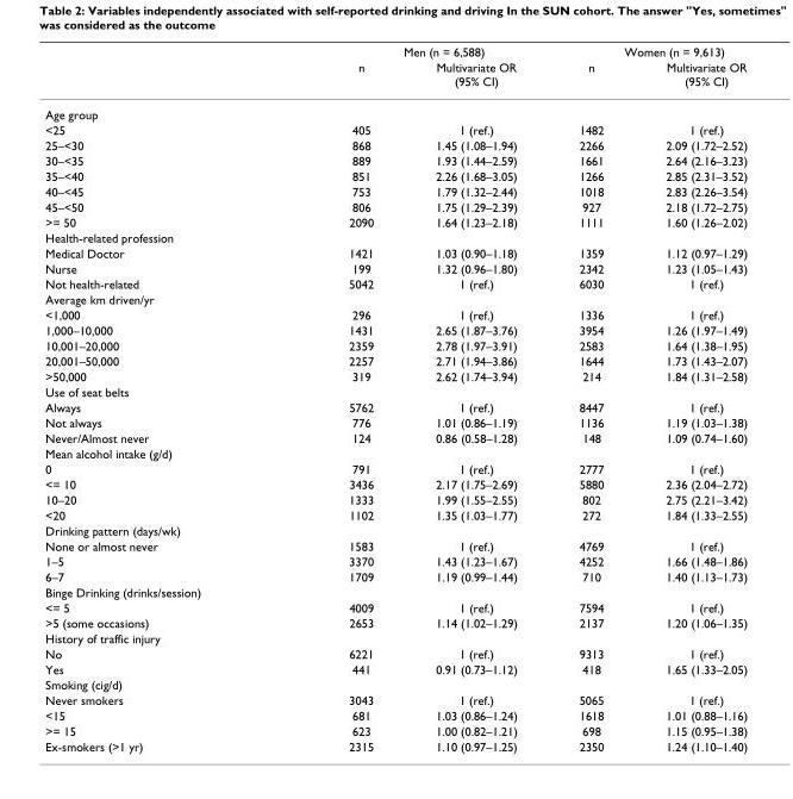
<table><thead><tr><td rowspan="2"></td><td colspan="2">Men (n = 6,588)</td><td colspan="2">Women (n = 9,613)</td></tr><tr><td>n</td><td>Multivariate OR (95% CI)</td><td>n</td><td>Multivariate OR (95% CI)</td></tr></thead><tbody><tr><td colspan="5">Age group</td></tr><tr><td>&lt;25</td><td>405</td><td>1 (ref.)</td><td>1482</td><td>1 (ref.)</td></tr><tr><td>25–&lt;30</td><td>868</td><td>1.45 (1.08–1.94)</td><td>2266</td><td>2.09 (1.72–2.52)</td></tr><tr><td>30–&lt;35</td><td>889</td><td>1.93 (1.44–2.59)</td><td>1661</td><td>2.64 (2.16–3.23)</td></tr><tr><td>35–&lt;40</td><td>851</td><td>2.26 (1.68–3.05)</td><td>1266</td><td>2.85 (2.31–3.52)</td></tr><tr><td>40–&lt;45</td><td>753</td><td>1.79 (1.32–2.44)</td><td>1018</td><td>2.83 (2.26–3.54)</td></tr><tr><td>45–&lt;50</td><td>806</td><td>1.75 (1.29–2.39)</td><td>927</td><td>2.18 (1.72–2.75)</td></tr><tr><td>&gt;= 50</td><td>2090</td><td>1.64 (1.23–2.18)</td><td>1111</td><td>1.60 (1.26–2.02)</td></tr><tr><td colspan="5">Health-related profession</td></tr><tr><td>Medical Doctor</td><td>1421</td><td>1.03 (0.90–1.18)</td><td>1359</td><td>1.12 (0.97–1.29)</td></tr><tr><td>Nurse</td><td>199</td><td>1.32 (0.96–1.80)</td><td>2342</td><td>1.23 (1.05–1.43)</td></tr><tr><td>Not health-related</td><td>5042</td><td>1 (ref.)</td><td>6030</td><td>1 (ref.)</td></tr><tr><td colspan="5">Average km driven/yr</td></tr><tr><td>&lt;1,000</td><td>296</td><td>1 (ref.)</td><td>1336</td><td>1 (ref.)</td></tr><tr><td>1,000–10,000</td><td>1431</td><td>2.65 (1.87–3.76)</td><td>3954</td><td>1.26 (1.97–1.49)</td></tr><tr><td>10,001–20,000</td><td>2359</td><td>2.78 (1.97–3.91)</td><td>2583</td><td>1.64 (1.38–1.95)</td></tr><tr><td>20,001–50,000</td><td>2257</td><td>2.71 (1.94–3.86)</td><td>1644</td><td>1.73 (1.43–2.07)</td></tr><tr><td>&gt;50,000</td><td>319</td><td>2.62 (1.74–3.94)</td><td>214</td><td>1.84 (1.31–2.58)</td></tr><tr><td colspan="5">Use of seat belts</td></tr><tr><td>Always</td><td>5762</td><td>1 (ref.)</td><td>8447</td><td>1 (ref.)</td></tr><tr><td>Not always</td><td>776</td><td>1.01 (0.86–1.19)</td><td>1136</td><td>1.19 (1.03–1.38)</td></tr><tr><td>Never/Almost never</td><td>124</td><td>0.86 (0.58–1.28)</td><td>148</td><td>1.09 (0.74–1.60)</td></tr><tr><td colspan="5">Mean alcohol intake (g/d)</td></tr><tr><td>0</td><td>791</td><td>1 (ref.)</td><td>2777</td><td>1 (ref.)</td></tr><tr><td>&lt;= 10</td><td>3436</td><td>2.17 (1.75–2.69)</td><td>5880</td><td>2.36 (2.04–2.72)</td></tr><tr><td>10–20</td><td>1333</td><td>1.99 (1.55–2.55)</td><td>802</td><td>2.75 (2.21–3.42)</td></tr><tr><td>&lt;20</td><td>1102</td><td>1.35 (1.03–1.77)</td><td>272</td><td>1.84 (1.33–2.55)</td></tr><tr><td colspan="5">Drinking pattern (days/wk)</td></tr><tr><td>None or almost never</td><td>1583</td><td>1 (ref.)</td><td>4769</td><td>1 (ref.)</td></tr><tr><td>1–5</td><td>3370</td><td>1.43 (1.23–1.67)</td><td>4252</td><td>1.66 (1.48–1.86)</td></tr><tr><td>6–7</td><td>1709</td><td>1.19 (0.99–1.44)</td><td>710</td><td>1.40 (1.13–1.73)</td></tr><tr><td colspan="5">Binge Drinking (drinks/session)</td></tr><tr><td>&lt;= 5</td><td>4009</td><td>1 (ref.)</td><td>7594</td><td>1 (ref.)</td></tr><tr><td>&gt;5 (some occasions)</td><td>2653</td><td>1.14 (1.02–1.29)</td><td>2137</td><td>1.20 (1.06–1.35)</td></tr><tr><td colspan="5">History of traffic injury</td></tr><tr><td>No</td><td>6221</td><td>1 (ref.)</td><td>9313</td><td>1 (ref.)</td></tr><tr><td>Yes</td><td>441</td><td>0.91 (0.73–1.12)</td><td>418</td><td>1.65 (1.33–2.05)</td></tr><tr><td colspan="5">Smoking (cig/d)</td></tr><tr><td>Never smokers</td><td>3043</td><td>1 (ref.)</td><td>5065</td><td>1 (ref.)</td></tr><tr><td>&lt;15</td><td>681</td><td>1.03 (0.86–1.24)</td><td>1618</td><td>1.01 (0.88–1.16)</td></tr><tr><td>&gt;= 15</td><td>623</td><td>1.00 (0.82–1.21)</td><td>698</td><td>1.15 (0.95–1.38)</td></tr><tr><td>Ex-smokers (&gt;1 yr)</td><td>2315</td><td>1.10 (0.97–1.25)</td><td>2350</td><td>1.24 (1.10–1.40)</td></tr></tbody></table>